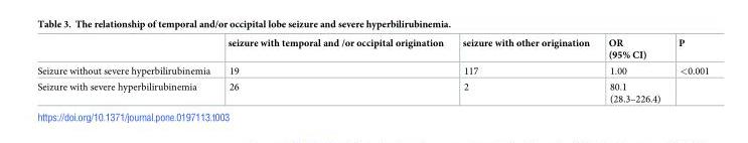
<table><thead><tr><td></td><td>seizure with temporal and /or occipital origination</td><td>seizure with other origination</td><td>OR (95% CI)</td><td>P</td></tr></thead><tbody><tr><td>Seizure without severe hyperbilirubinemia</td><td>19</td><td>117</td><td>1.00</td><td>&lt;0.001</td></tr><tr><td>Seizure with severe hyperbilirubinemia</td><td>26</td><td>2</td><td>80.1 (28.3–226.4)</td><td></td></tr></tbody></table>